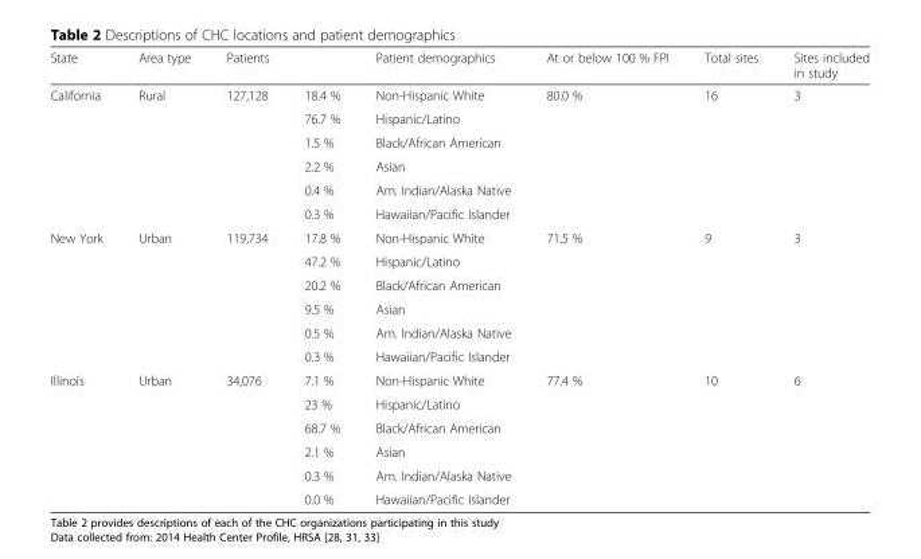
<table><thead><tr><td>State</td><td>Area type</td><td>Patients</td><td></td><td>Patient demographics</td><td>At or below 100 % FPI</td><td>Total sites</td><td>Sites included in study</td></tr></thead><tbody><tr><td rowspan="6">California</td><td rowspan="6">Rural</td><td rowspan="6">127,128</td><td>18.4 %</td><td>Non-Hispanic White</td><td rowspan="6">80.0 %</td><td rowspan="6">16</td><td rowspan="6">3</td></tr><tr><td>76.7 %</td><td>Hispanic/Latino</td></tr><tr><td>1.5 %</td><td>Black/African American</td></tr><tr><td>2.2 %</td><td>Asian</td></tr><tr><td>0.4 %</td><td>Am. Indian/Alaska Native</td></tr><tr><td>0.3 %</td><td>Hawaiian/Pacific Islander</td></tr><tr><td rowspan="6">New York</td><td rowspan="6">Urban</td><td rowspan="6">119,734</td><td>17.8 %</td><td>Non-Hispanic White</td><td rowspan="6">71.5 %</td><td rowspan="6">9</td><td rowspan="6">3</td></tr><tr><td>47.2 %</td><td>Hispanic/Latino</td></tr><tr><td>20.2 %</td><td>Black/African American</td></tr><tr><td>9.5 %</td><td>Asian</td></tr><tr><td>0.5 %</td><td>Am. Indian/Alaska Native</td></tr><tr><td>0.3 %</td><td>Hawaiian/Pacific Islander</td></tr><tr><td rowspan="6">Illinois</td><td rowspan="6">Urban</td><td rowspan="6">34,076</td><td>7.1 %</td><td>Non-Hispanic White</td><td rowspan="6">77.4 %</td><td rowspan="6">10</td><td rowspan="6">6</td></tr><tr><td>23 %</td><td>Hispanic/Latino</td></tr><tr><td>68.7 %</td><td>Black/African American</td></tr><tr><td>2.1 %</td><td>Asian</td></tr><tr><td>0.3 %</td><td>Am. Indian/Alaska Native</td></tr><tr><td>0.0 %</td><td>Hawaiian/Pacific Islander</td></tr></tbody></table>